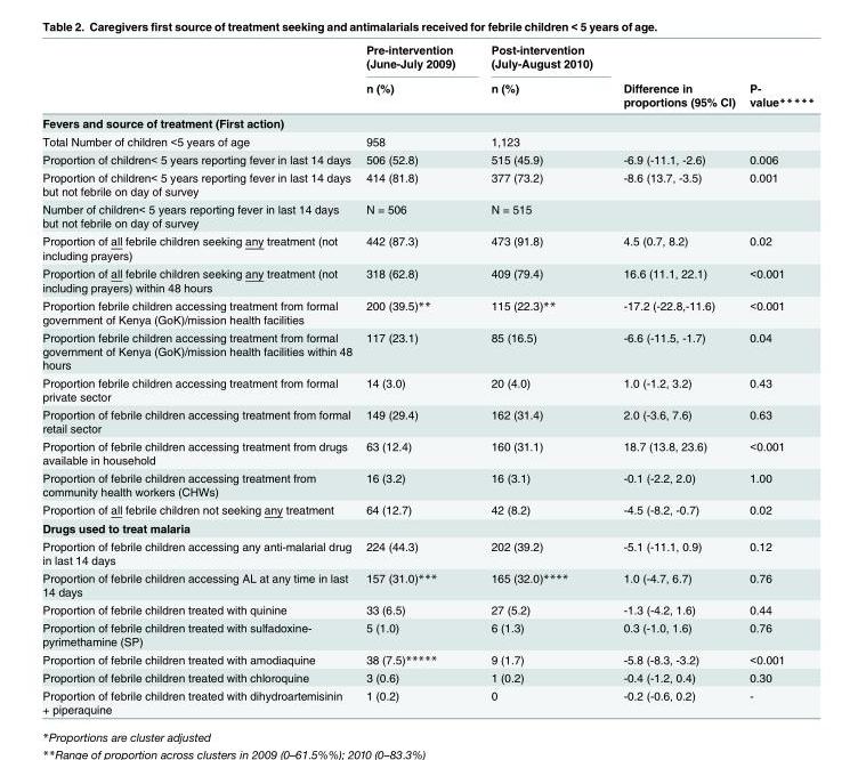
<table><thead><tr><td rowspan="2"></td><td rowspan="2">Pre-intervention (June-July 2009) n (%)</td><td rowspan="2">Post-intervention (July-August 2010) n (%)</td><td rowspan="2">Difference in proportions (95% CI)</td><td rowspan="2">P- value*****</td></tr><tr></tr></thead><tbody><tr><td colspan="5">Fevers and source of treatment (First action)</td></tr><tr><td>Total Number of children &lt;5 years of age</td><td>958</td><td>1,123</td><td></td><td></td></tr><tr><td>Proportion of children&lt; 5 years reporting fever in last 14 days</td><td>506 (52.8)</td><td>515 (45.9)</td><td>-6.9 (-11.1, -2.6)</td><td>0.006</td></tr><tr><td>Proportion of children&lt; 5 years reporting fever in last 14 days but not febrile on day of survey</td><td>414 (81.8)</td><td>377 (73.2)</td><td>-8.6 (13.7, -3.5)</td><td>0.001</td></tr><tr><td>Number of children&lt; 5 years reporting fever in last 14 days but not febrile on day of survey</td><td>N = 506</td><td>N = 515</td><td></td><td></td></tr><tr><td>Proportion of all febrile children seeking any treatment (not including prayers)</td><td>442 (87.3)</td><td>473 (91.8)</td><td>4.5 (0.7, 8.2)</td><td>0.02</td></tr><tr><td>Proportion of all febrile children seeking any treatment (not including prayers) within 48 hours</td><td>318 (62.8)</td><td>409 (79.4)</td><td>16.6 (11.1, 22.1)</td><td>&lt;0.001</td></tr><tr><td>Proportion febrile children accessing treatment from formal government of Kenya (GoK)/mission health facilities</td><td>200 (39.5)**</td><td>115 (22.3)**</td><td>-17.2 (-22.8,-11.6)</td><td>&lt;0.001</td></tr><tr><td>Proportion febrile children accessing treatment from formal government of Kenya (GoK)/mission health facilities within 48 hours</td><td>117 (23.1)</td><td>85 (16.5)</td><td>-6.6 (-11.5, -1.7)</td><td>0.04</td></tr><tr><td>Proportion febrile children accessing treatment from formal private sector</td><td>14 (3.0)</td><td>20 (4.0)</td><td>1.0 (-1.2, 3.2)</td><td>0.43</td></tr><tr><td>Proportion of febrile children accessing treatment from formal retail sector</td><td>149 (29.4)</td><td>162 (31.4)</td><td>2.0 (-3.6, 7.6)</td><td>0.63</td></tr><tr><td>Proportion of febrile children accessing treatment from drugs available in household</td><td>63 (12.4)</td><td>160 (31.1)</td><td>18.7 (13.8, 23.6)</td><td>&lt;0.001</td></tr><tr><td>Proportion of febrile children accessing treatment from community health workers (CHWs)</td><td>16 (3.2)</td><td>16 (3.1)</td><td>-0.1 (-2.2, 2.0)</td><td>1.00</td></tr><tr><td>Proportion of all febrile children not seeking any treatment</td><td>64 (12.7)</td><td>42 (8.2)</td><td>-4.5 (-8.2, -0.7)</td><td>0.02</td></tr><tr><td colspan="5">Drugs used to treat malaria</td></tr><tr><td>Proportion of febrile children accessing any anti-malarial drug in last 14 days</td><td>224 (44.3)</td><td>202 (39.2)</td><td>-5.1 (-11.1, 0.9)</td><td>0.12</td></tr><tr><td>Proportion of febrile children accessing AL at any time in last 14 days</td><td>157 (31.0)***</td><td>165 (32.0)****</td><td>1.0 (-4.7, 6.7)</td><td>0.76</td></tr><tr><td>Proportion of febrile children treated with quinine</td><td>33 (6.5)</td><td>27 (5.2)</td><td>-1.3 (-4.2, 1.6)</td><td>0.44</td></tr><tr><td>Proportion of febrile children treated with sulfadoxine- pyrimethamine (SP)</td><td>5 (1.0)</td><td>6 (1.3)</td><td>0.3 (-1.0, 1.6)</td><td>0.76</td></tr><tr><td>Proportion of febrile children treated with amodiaquine</td><td>38 (7.5)*****</td><td>9 (1.7)</td><td>-5.8 (-8.3, -3.2)</td><td>&lt;0.001</td></tr><tr><td>Proportion of febrile children treated with chloroquine</td><td>3 (0.6)</td><td>1 (0.2)</td><td>-0.4 (-1.2, 0.4)</td><td>0.30</td></tr><tr><td>Proportion of febrile children treated with dihydroartemisinin + piperaquine</td><td>1 (0.2)</td><td>0</td><td>-0.2 (-0.6, 0.2)</td><td>-</td></tr></tbody></table>